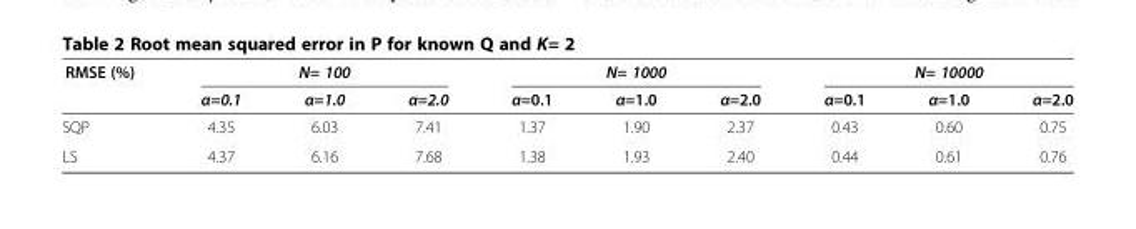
<table><thead><tr><td rowspan="2">RMSE (%)</td><td colspan="3">N= 100</td><td colspan="3">N= 1000</td><td colspan="3">N= 10000</td></tr><tr><td>α=0.1</td><td>α=1.0</td><td>α=2.0</td><td>α=0.1</td><td>α=1.0</td><td>α=2.0</td><td>α=0.1</td><td>α=1.0</td><td>α=2.0</td></tr></thead><tbody><tr><td>SQP</td><td>4.35</td><td>6.03</td><td>7.41</td><td>1.37</td><td>1.90</td><td>2.37</td><td>0.43</td><td>0.60</td><td>0.75</td></tr><tr><td>LS</td><td>4.37</td><td>6.16</td><td>7.68</td><td>1.38</td><td>1.93</td><td>2.40</td><td>0.44</td><td>0.61</td><td>0.76</td></tr></tbody></table>